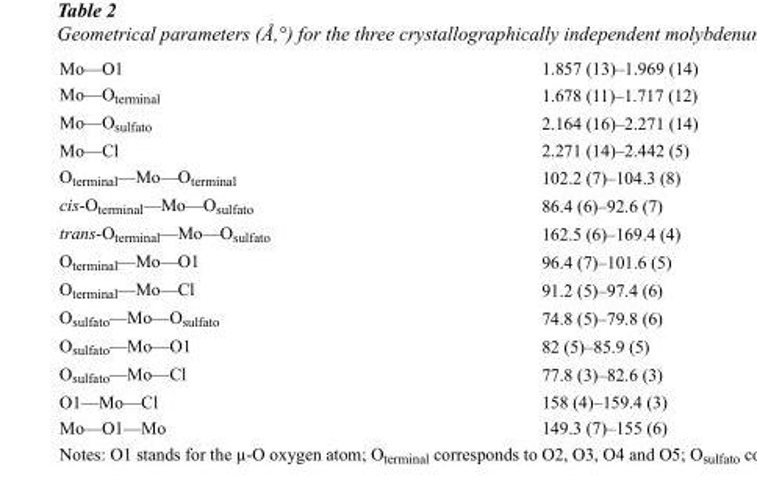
<table><tbody><tr><td>Mo—O1</td><td>1.857 (13)–1.969 (14)</td></tr><tr><td>Mo—O<sub>terminal</sub></td><td>1.678 (11)–1.717 (12)</td></tr><tr><td>Mo—O<sub>sulfato</sub></td><td>2.164 (16)–2.271 (14)</td></tr><tr><td>Mo—Cl</td><td>2.271 (14)–2.442 (5)</td></tr><tr><td>O<sub>terminal</sub>—Mo—O<sub>terminal</sub></td><td>102.2 (7)–104.3 (8)</td></tr><tr><td>cis-O<sub>terminal</sub>—Mo—O<sub>sulfato</sub></td><td>86.4 (6)–92.6 (7)</td></tr><tr><td>trans-O<sub>terminal</sub>—Mo—O<sub>sulfato</sub></td><td>162.5 (6)–169.4 (4)</td></tr><tr><td>O<sub>terminal</sub>—Mo—O1</td><td>96.4 (7)–101.6 (5)</td></tr><tr><td>O<sub>terminal</sub>—Mo—Cl</td><td>91.2 (5)–97.4 (6)</td></tr><tr><td>O<sub>sulfato</sub>—Mo—O<sub>sulfato</sub></td><td>74.8 (5)–79.8 (6)</td></tr><tr><td>O<sub>sulfato</sub>—Mo—O1</td><td>82 (5)–85.9 (5)</td></tr><tr><td>O<sub>sulfato</sub>—Mo—Cl</td><td>77.8 (3)–82.6 (3)</td></tr><tr><td>O1—Mo—Cl</td><td>158 (4)–159.4 (3)</td></tr><tr><td>Mo—O1—Mo</td><td>149.3 (7)–155 (6)</td></tr></tbody></table>